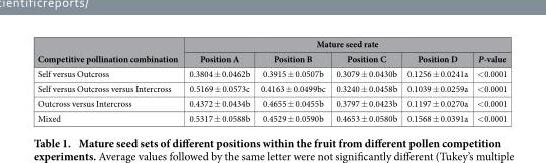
<table><thead><tr><td rowspan="2">Competitive pollination combination</td><td colspan="5">Mature seed rate</td></tr><tr><td>Position A</td><td>Position B</td><td>Position C</td><td>Position D</td><td>P-value</td></tr></thead><tbody><tr><td>Self versus Outcross</td><td>0.3804 ± 0.0462b</td><td>0.3915 ± 0.0507b</td><td>0.3079 ± 0.0430b</td><td>0.1256 ± 0.0241a</td><td>&lt; 0.0001</td></tr><tr><td>Self versus Outcross versus Intercross</td><td>0.5169 ± 0.0573c</td><td>0.4163 ± 0.0499bc</td><td>0.3240 ± 0.0458b</td><td>0.1039 ± 0.0259a</td><td>&lt; 0.0001</td></tr><tr><td>Outcross versus Intercross</td><td>0.4372 ± 0.0434b</td><td>0.4655 ± 0.0455b</td><td>0.3797 ± 0.0423b</td><td>0.1197 ± 0.0270a</td><td>&lt; 0.0001</td></tr><tr><td>Mixed</td><td>0.5317 ± 0.0588b</td><td>0.4529 ± 0.0590b</td><td>0.4653 ± 0.0580b</td><td>0.1568 ± 0.0391a</td><td>&lt; 0.0001</td></tr></tbody></table>